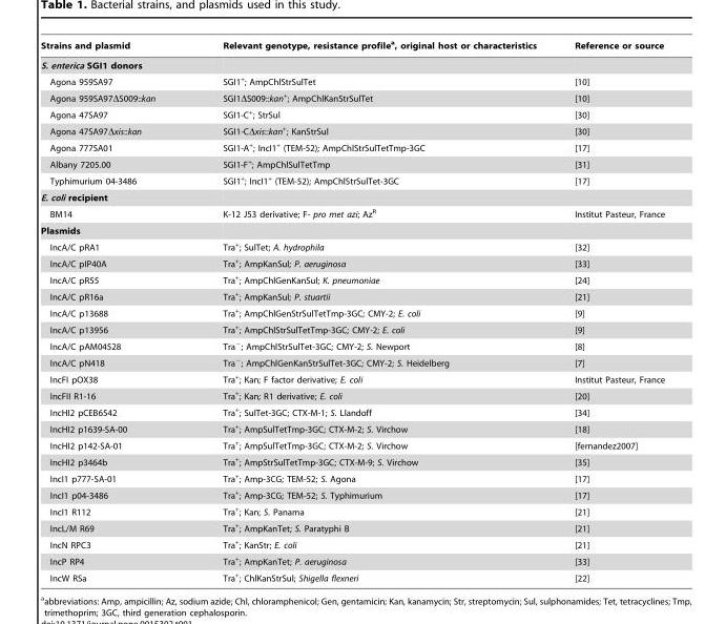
<table><thead><tr><td>Strains and plasmid</td><td>Relevant genotype, resistance profile<sup>a</sup>, original host or characteristics</td><td>Reference or source</td></tr></thead><tbody><tr><td colspan="3">S. enterica SGI1 donors</td></tr><tr><td>Agona 959SA97</td><td>SGI1<sup>+</sup>; AmpChlStrSulTet</td><td>[10]</td></tr><tr><td>Agona 959SA97ΔS009::kan</td><td>SGI1ΔS009::kan<sup>+</sup>; AmpChlKanStrSulTet</td><td>[10]</td></tr><tr><td>Agona 47SA97</td><td>SGI1-C<sup>+</sup>; StrSul</td><td>[30]</td></tr><tr><td>Agona 47SA97Δxis::kan</td><td>SGI1-CΔxis::kan<sup>+</sup>; KanStrSul</td><td>[30]</td></tr><tr><td>Agona 777SA01</td><td>SGI1-A<sup>+</sup>; IncI1<sup>+</sup> (TEM-52); AmpChlStrSulTetTmp-3GC</td><td>[17]</td></tr><tr><td>Albany 7205.00</td><td>SGI1-F<sup>+</sup>; AmpChlSulTetTmp</td><td>[31]</td></tr><tr><td>Typhimurium 04-3486</td><td>SGI1<sup>+</sup>; IncI1<sup>+</sup> (TEM-52); AmpChlStrSulTet-3GC</td><td>[17]</td></tr><tr><td colspan="3">E. coli recipient</td></tr><tr><td>BM14</td><td>K-12 J53 derivative; F- pro met azi; Az<sup>R</sup></td><td>Institut Pasteur, France</td></tr><tr><td colspan="3">Plasmids</td></tr><tr><td>IncA/C pRA1</td><td>Tra<sup>+</sup>; SulTet; A. hydrophila</td><td>[32]</td></tr><tr><td>IncA/C pIP40A</td><td>Tra<sup>+</sup>; AmpKanSul; P. aeruginosa</td><td>[33]</td></tr><tr><td>IncA/C pR55</td><td>Tra<sup>+</sup>; AmpChlGenKanSul; K. pneumoniae</td><td>[24]</td></tr><tr><td>IncA/C pR16a</td><td>Tra<sup>+</sup>; AmpKanSul; P. stuartii</td><td>[21]</td></tr><tr><td>IncA/C p13688</td><td>Tra<sup>+</sup>; AmpChlGenStrSulTetTmp-3GC; CMY-2; E. coli</td><td>[9]</td></tr><tr><td>IncA/C p13956</td><td>Tra<sup>+</sup>; AmpChlStrSulTetTmp-3GC; CMY-2; E. coli</td><td>[9]</td></tr><tr><td>IncA/C pAM04528</td><td>Tra<sup>−</sup>; AmpChlStrSulTet-3GC; CMY-2; S. Newport</td><td>[8]</td></tr><tr><td>IncA/C pN418</td><td>Tra<sup>−</sup>; AmpChlGenKanStrSulTet-3GC; CMY-2; S. Heidelberg</td><td>[7]</td></tr><tr><td>IncFI pOX38</td><td>Tra<sup>+</sup>; Kan; F factor derivative; E. coli</td><td>Institut Pasteur, France</td></tr><tr><td>IncFII R1-16</td><td>Tra<sup>+</sup>; Kan; R1 derivative; E. coli</td><td>[20]</td></tr><tr><td>IncHI2 pCEB6542</td><td>Tra<sup>+</sup>; SulTet-3GC; CTX-M-1; S. Llandoff</td><td>[34]</td></tr><tr><td>IncHI2 p1639-SA-00</td><td>Tra<sup>+</sup>; AmpSulTetTmp-3GC; CTX-M-2; S. Virchow</td><td>[18]</td></tr><tr><td>IncHI2 p142-SA-01</td><td>Tra<sup>+</sup>; AmpSulTetTmp-3GC; CTX-M-2; S. Virchow</td><td>[fernandez2007]</td></tr><tr><td>IncHI2 p3464b</td><td>Tra<sup>+</sup>; AmpStrSulTetTmp-3GC; CTX-M-9; S. Virchow</td><td>[35]</td></tr><tr><td>IncI1 p777-SA-01</td><td>Tra<sup>+</sup>; Amp-3CG; TEM-52; S. Agona</td><td>[17]</td></tr><tr><td>IncI1 p04-3486</td><td>Tra<sup>+</sup>; Amp-3CG; TEM-52; S. Typhimurium</td><td>[17]</td></tr><tr><td>IncI1 R112</td><td>Tra<sup>+</sup>; Kan; S. Panama</td><td>[21]</td></tr><tr><td>IncL/M R69</td><td>Tra<sup>+</sup>; AmpKanTet; S. Paratyphi B</td><td>[21]</td></tr><tr><td>IncN RPC3</td><td>Tra<sup>+</sup>; KanStr; E. coli</td><td>[21]</td></tr><tr><td>IncP RP4</td><td>Tra<sup>+</sup>; AmpKanTet; P. aeruginosa</td><td>[33]</td></tr><tr><td>IncW RSa</td><td>Tra<sup>+</sup>; ChlKanStrSul; Shigella flexneri</td><td>[22]</td></tr></tbody></table>